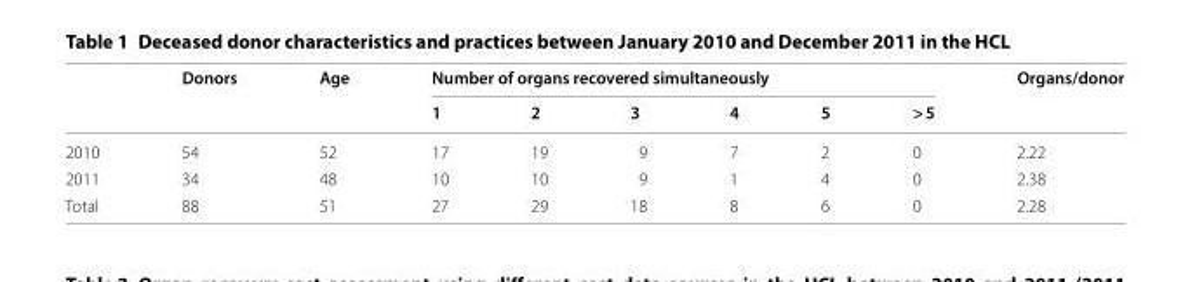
<table><thead><tr><td rowspan="2"></td><td rowspan="2">Donors</td><td rowspan="2">Age</td><td colspan="6">Number of organs recovered simultaneously</td><td rowspan="2">Organs/donor</td></tr><tr><td>1</td><td>2</td><td>3</td><td>4</td><td>5</td><td>&gt; 5</td></tr></thead><tbody><tr><td>2010</td><td>54</td><td>52</td><td>17</td><td>19</td><td>9</td><td>7</td><td>2</td><td>0</td><td>2.22</td></tr><tr><td>2011</td><td>34</td><td>48</td><td>10</td><td>10</td><td>9</td><td>1</td><td>4</td><td>0</td><td>2.38</td></tr><tr><td>Total</td><td>88</td><td>51</td><td>27</td><td>29</td><td>18</td><td>8</td><td>6</td><td>0</td><td>2.28</td></tr></tbody></table>